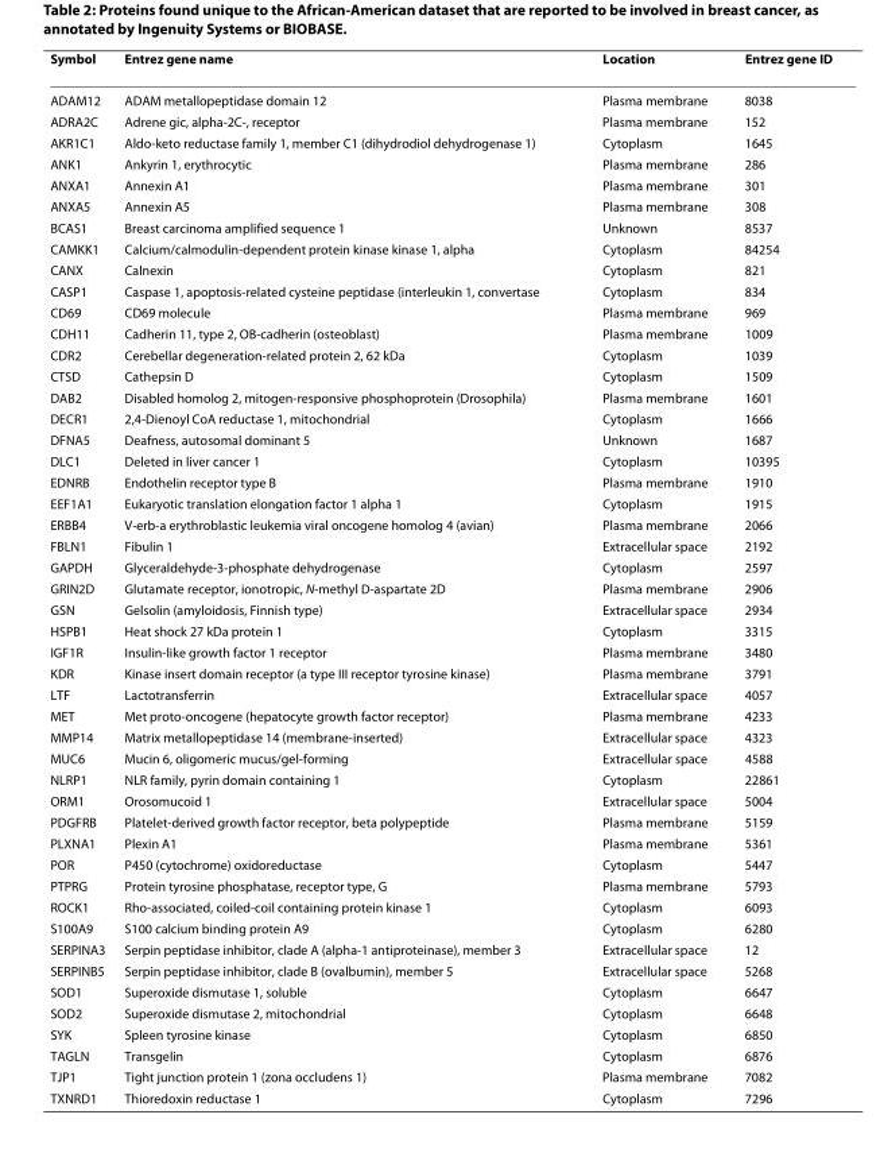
<table><thead><tr><td>Symbol</td><td>Entrez gene name</td><td>Location</td><td>Entrez gene ID</td></tr></thead><tbody><tr><td>ADAM12</td><td>ADAM metallopeptidase domain 12</td><td>Plasma membrane</td><td>8038</td></tr><tr><td>ADRA2C</td><td>Adrene gic, alpha-2C-, receptor</td><td>Plasma membrane</td><td>152</td></tr><tr><td>AKR1C1</td><td>Aldo-keto reductase family 1, member C1 (dihydrodiol dehydrogenase 1)</td><td>Cytoplasm</td><td>1645</td></tr><tr><td>ANK1</td><td>Ankyrin 1, erythrocytic</td><td>Plasma membrane</td><td>286</td></tr><tr><td>ANXA1</td><td>Annexin A1</td><td>Plasma membrane</td><td>301</td></tr><tr><td>ANXA5</td><td>Annexin A5</td><td>Plasma membrane</td><td>308</td></tr><tr><td>BCAS1</td><td>Breast carcinoma amplified sequence 1</td><td>Unknown</td><td>8537</td></tr><tr><td>CAMKK1</td><td>Calcium/calmodulin-dependent protein kinase kinase 1, alpha</td><td>Cytoplasm</td><td>84254</td></tr><tr><td>CANX</td><td>Calnexin</td><td>Cytoplasm</td><td>821</td></tr><tr><td>CASP1</td><td>Caspase 1, apoptosis-related cysteine peptidase (interleukin 1, convertase</td><td>Cytoplasm</td><td>834</td></tr><tr><td>CD69</td><td>CD69 molecule</td><td>Plasma membrane</td><td>969</td></tr><tr><td>CDH11</td><td>Cadherin 11, type 2, OB-cadherin (osteoblast)</td><td>Plasma membrane</td><td>1009</td></tr><tr><td>CDR2</td><td>Cerebellar degeneration-related protein 2, 62 kDa</td><td>Cytoplasm</td><td>1039</td></tr><tr><td>CTSD</td><td>Cathepsin D</td><td>Cytoplasm</td><td>1509</td></tr><tr><td>DAB2</td><td>Disabled homolog 2, mitogen-responsive phosphoprotein (Drosophila)</td><td>Plasma membrane</td><td>1601</td></tr><tr><td>DECR1</td><td>2,4-Dienoyl CoA reductase 1, mitochondrial</td><td>Cytoplasm</td><td>1666</td></tr><tr><td>DFNA5</td><td>Deafness, autosomal dominant 5</td><td>Unknown</td><td>1687</td></tr><tr><td>DLC1</td><td>Deleted in liver cancer 1</td><td>Cytoplasm</td><td>10395</td></tr><tr><td>EDNRB</td><td>Endothelin receptor type B</td><td>Plasma membrane</td><td>1910</td></tr><tr><td>EEF1A1</td><td>Eukaryotic translation elongation factor 1 alpha 1</td><td>Cytoplasm</td><td>1915</td></tr><tr><td>ERBB4</td><td>V-erb-a erythroblastic leukemia viral oncogene homolog 4 (avian)</td><td>Plasma membrane</td><td>2066</td></tr><tr><td>FBLN1</td><td>Fibulin 1</td><td>Extracellular space</td><td>2192</td></tr><tr><td>GAPDH</td><td>Glyceraldehyde-3-phosphate dehydrogenase</td><td>Cytoplasm</td><td>2597</td></tr><tr><td>GRIN2D</td><td>Glutamate receptor, ionotropic, N-methyl D-aspartate 2D</td><td>Plasma membrane</td><td>2906</td></tr><tr><td>GSN</td><td>Gelsolin (amyloidosis, Finnish type)</td><td>Extracellular space</td><td>2934</td></tr><tr><td>HSPB1</td><td>Heat shock 27 kDa protein 1</td><td>Cytoplasm</td><td>3315</td></tr><tr><td>IGF1R</td><td>Insulin-like growth factor 1 receptor</td><td>Plasma membrane</td><td>3480</td></tr><tr><td>KDR</td><td>Kinase insert domain receptor (a type III receptor tyrosine kinase)</td><td>Plasma membrane</td><td>3791</td></tr><tr><td>LTF</td><td>Lactotransferrin</td><td>Extracellular space</td><td>4057</td></tr><tr><td>MET</td><td>Met proto-oncogene (hepatocyte growth factor receptor)</td><td>Plasma membrane</td><td>4233</td></tr><tr><td>MMP14</td><td>Matrix metallopeptidase 14 (membrane-inserted)</td><td>Extracellular space</td><td>4323</td></tr><tr><td>MUC6</td><td>Mucin 6, oligomeric mucus/gel-forming</td><td>Extracellular space</td><td>4588</td></tr><tr><td>NLRP1</td><td>NLR family, pyrin domain containing 1</td><td>Cytoplasm</td><td>22861</td></tr><tr><td>ORM1</td><td>Orosomucoid 1</td><td>Extracellular space</td><td>5004</td></tr><tr><td>PDGFRB</td><td>Platelet-derived growth factor receptor, beta polypeptide</td><td>Plasma membrane</td><td>5159</td></tr><tr><td>PLXNA1</td><td>Plexin A1</td><td>Plasma membrane</td><td>5361</td></tr><tr><td>POR</td><td>P450 (cytochrome) oxidoreductase</td><td>Cytoplasm</td><td>5447</td></tr><tr><td>PTPRG</td><td>Protein tyrosine phosphatase, receptor type, G</td><td>Plasma membrane</td><td>5793</td></tr><tr><td>ROCK1</td><td>Rho-associated, coiled-coil containing protein kinase 1</td><td>Cytoplasm</td><td>6093</td></tr><tr><td>S100A9</td><td>S100 calcium binding protein A9</td><td>Cytoplasm</td><td>6280</td></tr><tr><td>SERPINA3</td><td>Serpin peptidase inhibitor, clade A (alpha-1 antiproteinase), member 3</td><td>Extracellular space</td><td>12</td></tr><tr><td>SERPINB5</td><td>Serpin peptidase inhibitor, clade B (ovalbumin), member 5</td><td>Extracellular space</td><td>5268</td></tr><tr><td>SOD1</td><td>Superoxide dismutase 1, soluble</td><td>Cytoplasm</td><td>6647</td></tr><tr><td>SOD2</td><td>Superoxide dismutase 2, mitochondrial</td><td>Cytoplasm</td><td>6648</td></tr><tr><td>SYK</td><td>Spleen tyrosine kinase</td><td>Cytoplasm</td><td>6850</td></tr><tr><td>TAGLN</td><td>Transgelin</td><td>Cytoplasm</td><td>6876</td></tr><tr><td>TJP1</td><td>Tight junction protein 1 (zona occludens 1)</td><td>Plasma membrane</td><td>7082</td></tr><tr><td>TXNRD1</td><td>Thioredoxin reductase 1</td><td>Cytoplasm</td><td>7296</td></tr></tbody></table>